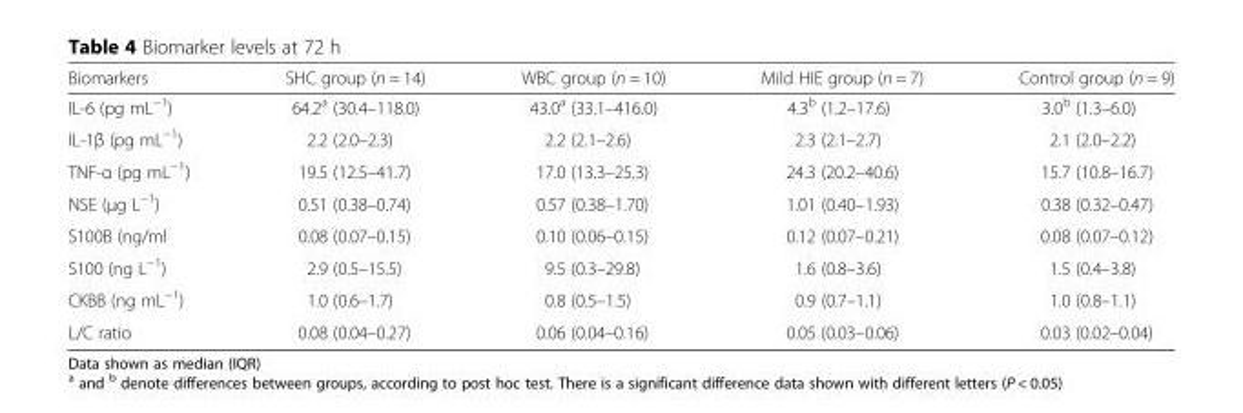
<table><thead><tr><td>Biomarkers</td><td>SHC group (n = 14)</td><td>WBC group (n = 10)</td><td>Mild HIE group (n = 7)</td><td>Control group (n = 9)</td></tr></thead><tbody><tr><td>IL-6 (pg mL<sup>−1</sup>)</td><td>64.2<sup>a</sup> (30.4–118.0)</td><td>43.0<sup>a</sup> (33.1–416.0)</td><td>4.3<sup>b</sup> (1.2–17.6)</td><td>3.0<sup>b</sup> (1.3–6.0)</td></tr><tr><td>IL-1β (pg mL<sup>−1</sup>)</td><td>2.2 (2.0–2.3)</td><td>2.2 (2.1–2.6)</td><td>2.3 (2.1–2.7)</td><td>2.1 (2.0–2.2)</td></tr><tr><td>TNF-α (pg mL<sup>−1</sup>)</td><td>19.5 (12.5–41.7)</td><td>17.0 (13.3–25.3)</td><td>24.3 (20.2–40.6)</td><td>15.7 (10.8–16.7)</td></tr><tr><td>NSE (μg L<sup>−1</sup>)</td><td>0.51 (0.38–0.74)</td><td>0.57 (0.38–1.70)</td><td>1.01 (0.40–1.93)</td><td>0.38 (0.32–0.47)</td></tr><tr><td>S100B (ng/ml</td><td>0.08 (0.07–0.15)</td><td>0.10 (0.06–0.15)</td><td>0.12 (0.07–0.21)</td><td>0.08 (0.07–0.12)</td></tr><tr><td>S100 (ng L<sup>−1</sup>)</td><td>2.9 (0.5–15.5)</td><td>9.5 (0.3–29.8)</td><td>1.6 (0.8–3.6)</td><td>1.5 (0.4–3.8)</td></tr><tr><td>CKBB (ng mL<sup>−1</sup>)</td><td>1.0 (0.6–1.7)</td><td>0.8 (0.5–1.5)</td><td>0.9 (0.7–1.1)</td><td>1.0 (0.8–1.1)</td></tr><tr><td>L/C ratio</td><td>0.08 (0.04–0.27)</td><td>0.06 (0.04–0.16)</td><td>0.05 (0.03–0.06)</td><td>0.03 (0.02–0.04)</td></tr></tbody></table>